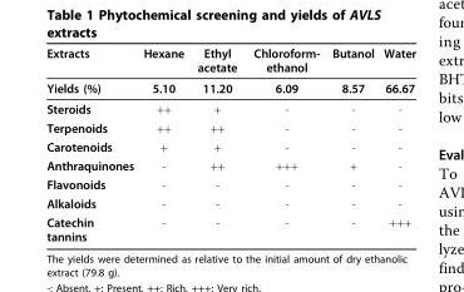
<table><thead><tr><td>Extracts</td><td>Hexane</td><td>Ethyl acetate</td><td>Chloroform- ethanol</td><td>Butanol</td><td>Water</td></tr></thead><tbody><tr><td>Yields (%)</td><td>5.10</td><td>11.20</td><td>6.09</td><td>8.57</td><td>66.67</td></tr><tr><td>Steroids</td><td>++</td><td>+</td><td>-</td><td>-</td><td>-</td></tr><tr><td>Terpenoids</td><td>++</td><td>++</td><td>-</td><td>-</td><td>-</td></tr><tr><td>Carotenoids</td><td>+</td><td>+</td><td>-</td><td>-</td><td>-</td></tr><tr><td>Anthraquinones</td><td>-</td><td>++</td><td>+++</td><td>+</td><td>-</td></tr><tr><td>Flavonoids</td><td>-</td><td>-</td><td>-</td><td>-</td><td>-</td></tr><tr><td>Alkaloids</td><td>-</td><td>-</td><td>-</td><td>-</td><td>-</td></tr><tr><td>Catechin tannins</td><td>-</td><td>-</td><td>-</td><td>-</td><td>+++</td></tr></tbody></table>